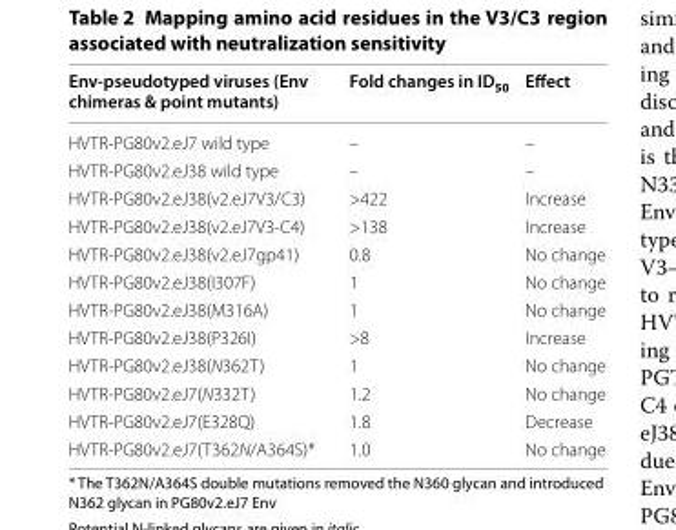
<table><thead><tr><td>Env‑pseudotyped viruses (Env chimeras &amp; point mutants)</td><td>Fold changes in ID<sub>50</sub></td><td>Effect</td></tr></thead><tbody><tr><td>HVTR-PG80v2.eJ7 wild type</td><td>–</td><td>–</td></tr><tr><td>HVTR-PG80v2.eJ38 wild type</td><td>–</td><td>–</td></tr><tr><td>HVTR-PG80v2.eJ38(v2.eJ7V3/C3)</td><td>&gt;422</td><td>Increase</td></tr><tr><td>HVTR-PG80v2.eJ38(v2.eJ7V3-C4)</td><td>&gt;138</td><td>Increase</td></tr><tr><td>HVTR-PG80v2.eJ38(v2.eJ7gp41)</td><td>0.8</td><td>No change</td></tr><tr><td>HVTR-PG80v2.eJ38(I307F)</td><td>1</td><td>No change</td></tr><tr><td>HVTR-PG80v2.eJ38(M316A)</td><td>1</td><td>No change</td></tr><tr><td>HVTR-PG80v2.eJ38(P326I)</td><td>&gt;8</td><td>Increase</td></tr><tr><td>HVTR-PG80v2.eJ38(N362T)</td><td>1</td><td>No change</td></tr><tr><td>HVTR-PG80v2.eJ7(N332T)</td><td>1.2</td><td>No change</td></tr><tr><td>HVTR-PG80v2.eJ7(E328Q)</td><td>1.8</td><td>Decrease</td></tr><tr><td>HVTR-PG80v2.eJ7(T362N/A364S)*</td><td>1.0</td><td>No change</td></tr></tbody></table>